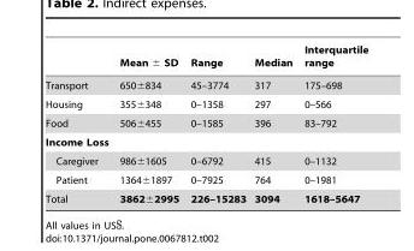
<table><thead><tr><td></td><td>Mean ± SD</td><td>Range</td><td>Median</td><td>Interquartile range</td></tr></thead><tbody><tr><td>Transport</td><td>650±834</td><td>45–3774</td><td>317</td><td>175–698</td></tr><tr><td>Housing</td><td>355±348</td><td>0–1358</td><td>297</td><td>0–566</td></tr><tr><td>Food</td><td>506±455</td><td>0–1585</td><td>396</td><td>83–792</td></tr><tr><td colspan="5">Income Loss</td></tr><tr><td>Caregiver</td><td>986±1605</td><td>0–6792</td><td>415</td><td>0–1132</td></tr><tr><td>Patient</td><td>1364±1897</td><td>0–7925</td><td>764</td><td>0–1981</td></tr><tr><td>Total</td><td>3862±2995</td><td>226–15283</td><td>3094</td><td>1618–5647</td></tr></tbody></table>